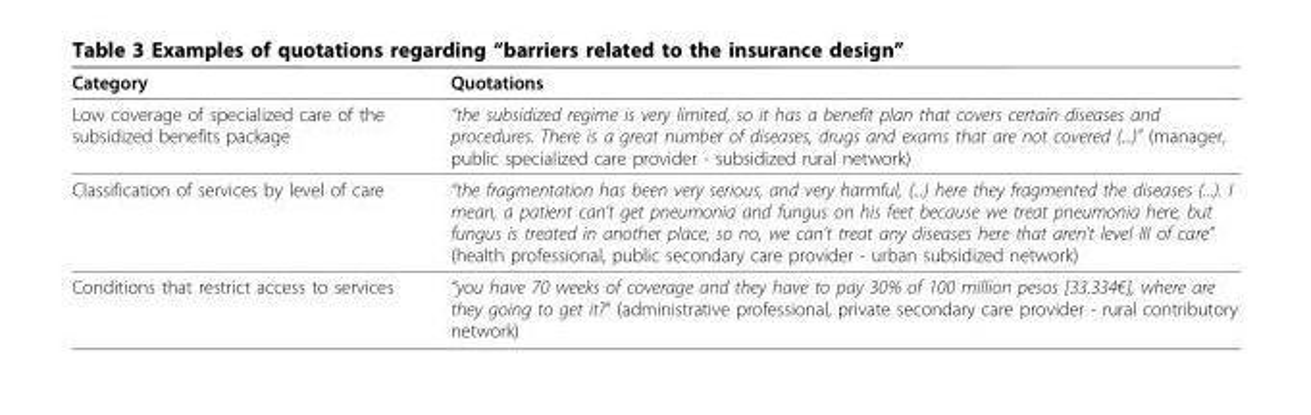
<table><thead><tr><td>Category</td><td>Quotations</td></tr></thead><tbody><tr><td>Low coverage of specialized care of the subsidized benefits package</td><td>“the subsidized regime is very limited, so it has a benefit plan that covers certain diseases and procedures. There is a great number of diseases, drugs and exams that are not covered (...)” (manager, public specialized care provider - subsidized rural network)</td></tr><tr><td>Classification of services by level of care</td><td>“the fragmentation has been very serious, and very harmful, (...) here they fragmented the diseases (...). I mean, a patient can’t get pneumonia and fungus on his feet because we treat pneumonia here, but fungus is treated in another place, so no, we can’t treat any diseases here that aren’t level III of care” (health professional, public secondary care provider - urban subsidized network)</td></tr><tr><td>Conditions that restrict access to services</td><td>“you have 70 weeks of coverage and they have to pay 30% of 100 million pesos [33.334€], where are they going to get it?“ (administrative professional, private secondary care provider - rural contributory network)</td></tr></tbody></table>